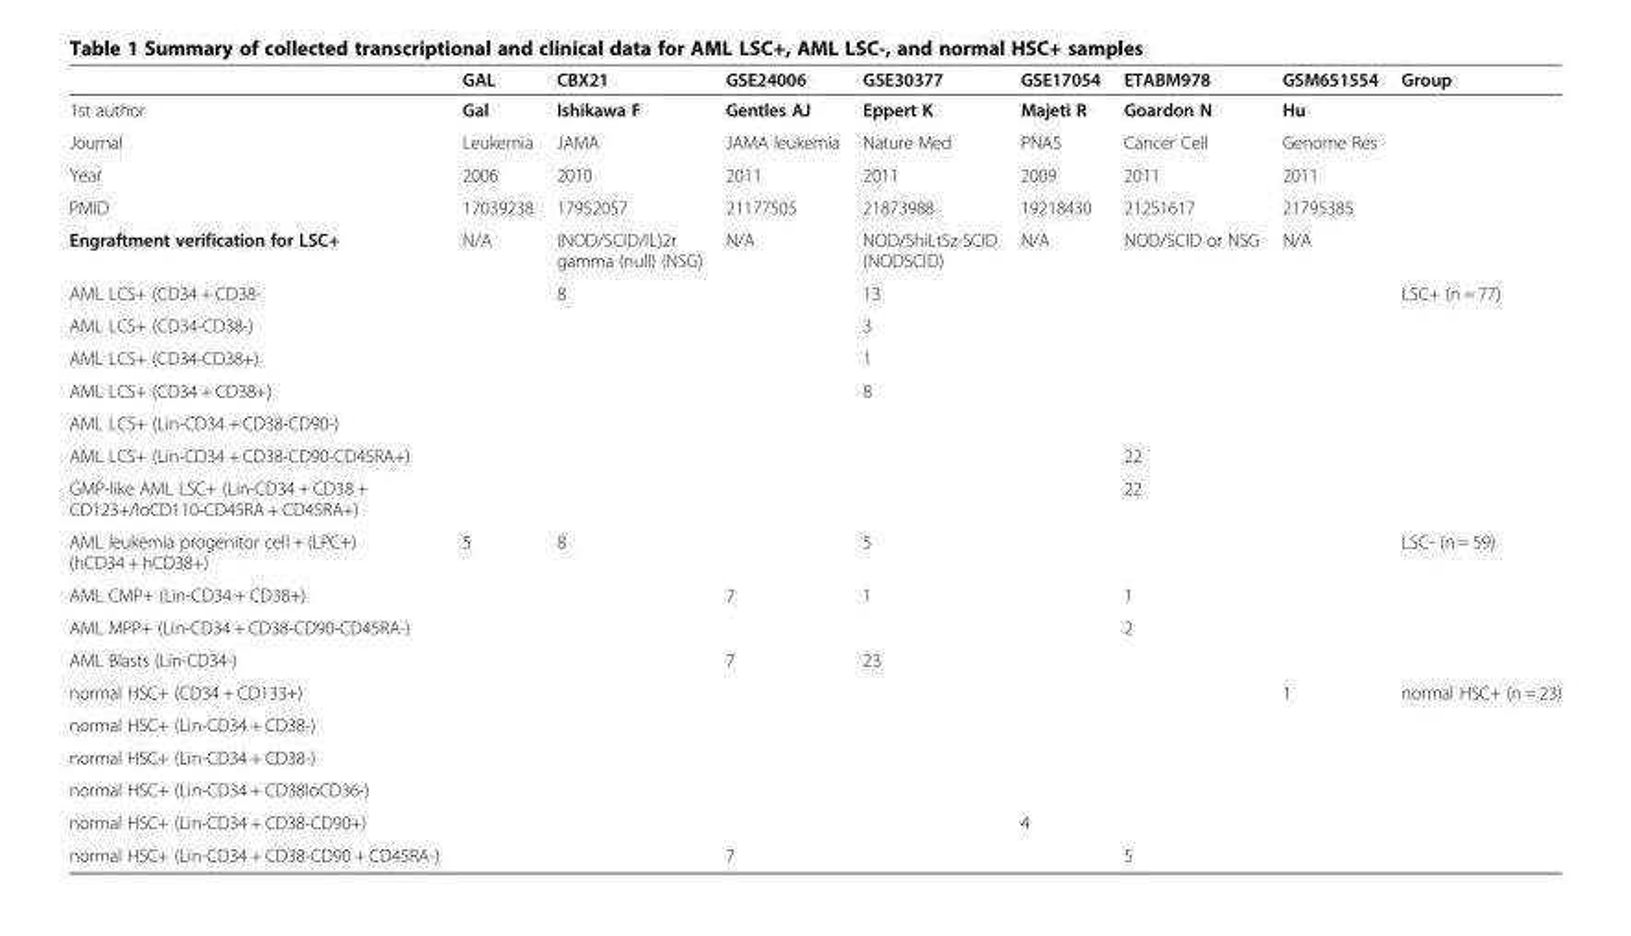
<table><thead><tr><td></td><td>GAL</td><td>CBX21</td><td>GSE24006</td><td>GSE30377</td><td>GSE17054</td><td>ETABM978</td><td>GSM651554</td><td>Group</td></tr></thead><tbody><tr><td>1st author</td><td>Gal</td><td>Ishikawa F</td><td>Gentles AJ</td><td>Eppert K</td><td>Majeti R</td><td>Goardon N</td><td>Hu</td><td></td></tr><tr><td>Journal</td><td>Leukemia</td><td>JAMA</td><td>JAMA leukemia</td><td>Nature Med</td><td>PNAS</td><td>Cancer Cell</td><td>Genome Res</td><td></td></tr><tr><td>Year</td><td>2006</td><td>2010</td><td>2011</td><td>2011</td><td>2009</td><td>2011</td><td>2011</td><td></td></tr><tr><td>PMID</td><td>17039238</td><td>17952057</td><td>21177505</td><td>21873988</td><td>19218430</td><td>21251617</td><td>21795385</td><td></td></tr><tr><td>Engraftment verification for LSC+</td><td>N/A</td><td>(NOD/SCID/IL)2r gamma (null) (NSG)</td><td>N/A</td><td>NOD/ShiLtSz-SCID (NODSCID)</td><td>N/A</td><td>NOD/SCID or NSG</td><td>N/A</td><td></td></tr><tr><td>AML LCS+ (CD34 + CD38-</td><td></td><td>8</td><td></td><td>13</td><td></td><td></td><td></td><td rowspan="7">LSC+ (n = 77)</td></tr><tr><td>AML LCS+ (CD34-CD38-)</td><td></td><td></td><td></td><td>3</td><td></td><td></td><td></td></tr><tr><td>AML LCS+ (CD34-CD38+)</td><td></td><td></td><td></td><td>1</td><td></td><td></td><td></td></tr><tr><td>AML LCS+ (CD34 + CD38+)</td><td></td><td></td><td></td><td>8</td><td></td><td></td><td></td></tr><tr><td colspan="8">AML LCS+ (Lin-CD34 + CD38-CD90-)</td></tr><tr><td>AML LCS+ (Lin-CD34 + CD38-CD90-CD45RA+)</td><td></td><td></td><td></td><td></td><td></td><td>22</td><td></td></tr><tr><td>GMP-like AML LSC+ (Lin-CD34 + CD38 + CD123+/loCD110-CD45RA + CD45RA+)</td><td></td><td></td><td></td><td></td><td></td><td>22</td><td></td></tr><tr><td>AML leukemia progenitor cell + (LPC+) (hCD34 + hCD38+)</td><td>5</td><td>8</td><td></td><td>5</td><td></td><td></td><td></td><td rowspan="4">LSC- (n = 59)</td></tr><tr><td>AML CMP+ (Lin-CD34 + CD38+)</td><td></td><td></td><td>7</td><td>1</td><td></td><td>1</td><td></td></tr><tr><td>AML MPP+ (Lin-CD34 + CD38-CD90-CD45RA-)</td><td></td><td></td><td></td><td></td><td></td><td>2</td><td></td></tr><tr><td>AML Blasts (Lin-CD34-)</td><td></td><td></td><td>7</td><td>23</td><td></td><td></td><td></td></tr><tr><td>normal HSC+ (CD34 + CD133+)</td><td></td><td></td><td></td><td></td><td></td><td></td><td>1</td><td rowspan="6">normal HSC+ (n = 23)</td></tr><tr><td colspan="8">normal HSC+ (Lin-CD34 + CD38-)</td></tr><tr><td colspan="8">normal HSC+ (Lin-CD34 + CD38-)</td></tr><tr><td colspan="8">normal HSC+ (Lin-CD34 + CD38loCD36-)</td></tr><tr><td>normal HSC+ (Lin-CD34 + CD38-CD90+)</td><td></td><td></td><td></td><td></td><td>4</td><td></td><td></td></tr><tr><td>normal HSC+ (Lin-CD34 + CD38-CD90 + CD45RA-)</td><td></td><td></td><td>7</td><td></td><td></td><td>5</td><td></td></tr></tbody></table>